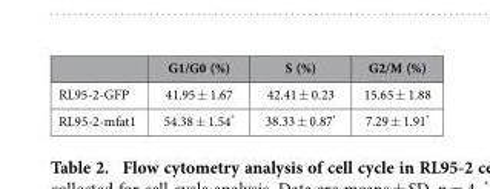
<table><thead><tr><td></td><td>G1/G0 (%)</td><td>S (%)</td><td>G2/M (%)</td></tr></thead><tbody><tr><td>RL95-2-GFP</td><td>41.95 ± 1.67</td><td>42.41 ± 0.23</td><td>15.65 ± 1.88</td></tr><tr><td>RL95-2-mfat1</td><td>54.38 ± 1.54*</td><td>38.33 ± 0.87*</td><td>7.29 ± 1.91*</td></tr></tbody></table>